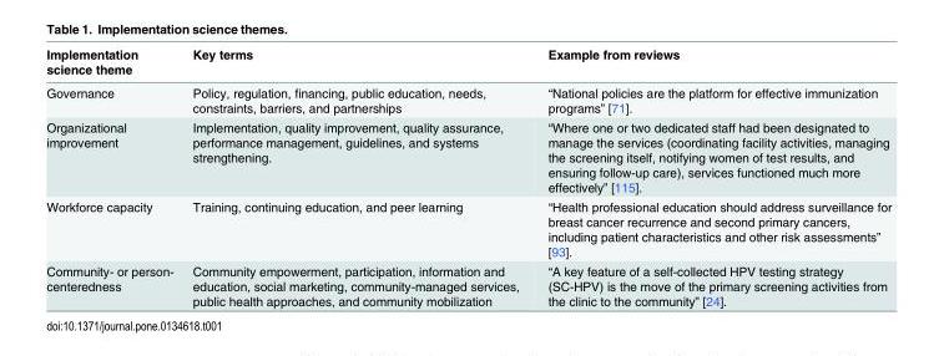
<table><thead><tr><td>Implementation science theme</td><td>Key terms</td><td>Example from reviews</td></tr></thead><tbody><tr><td>Governance</td><td>Policy, regulation, financing, public education, needs, constraints, barriers, and partnerships</td><td>“National policies are the platform for effective immunization programs” [71].</td></tr><tr><td>Organizational improvement</td><td>Implementation, quality improvement, quality assurance, performance management, guidelines, and systems strengthening.</td><td>“Where one or two dedicated staff had been designated to manage the services (coordinating facility activities, managing the screening itself, notifying women of test results, and ensuring follow-up care), services functioned much more effectively” [115].</td></tr><tr><td>Workforce capacity</td><td>Training, continuing education, and peer learning</td><td>“Health professional education should address surveillance for breast cancer recurrence and second primary cancers, including patient characteristics and other risk assessments” [93].</td></tr><tr><td>Community- or person- centeredness</td><td>Community empowerment, participation, information and education, social marketing, community-managed services, public health approaches, and community mobilization</td><td>“A key feature of a self-collected HPV testing strategy (SC-HPV) is the move of the primary screening activities from the clinic to the community” [24].</td></tr></tbody></table>